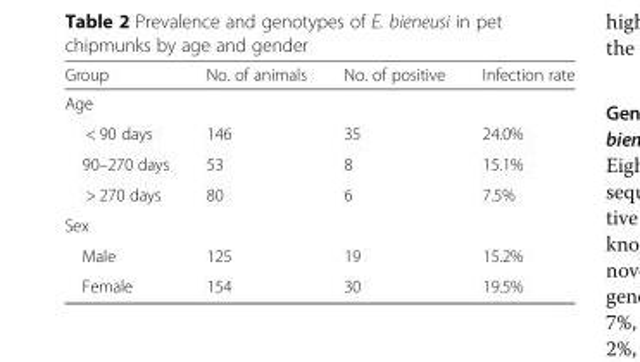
<table><thead><tr><td>Group</td><td>No. of animals</td><td>No. of positive</td><td>Infection rate</td></tr></thead><tbody><tr><td colspan="4">Age</td></tr><tr><td>&lt; 90 days</td><td>146</td><td>35</td><td>24.0%</td></tr><tr><td>90–270 days</td><td>53</td><td>8</td><td>15.1%</td></tr><tr><td>&gt; 270 days</td><td>80</td><td>6</td><td>7.5%</td></tr><tr><td colspan="4">Sex</td></tr><tr><td>Male</td><td>125</td><td>19</td><td>15.2%</td></tr><tr><td>Female</td><td>154</td><td>30</td><td>19.5%</td></tr></tbody></table>